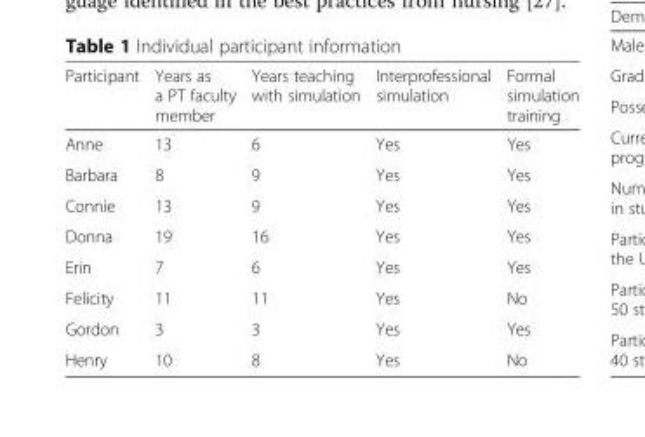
<table><thead><tr><td>Participant</td><td>Years as a PT faculty member</td><td>Years teaching with simulation</td><td>Interprofessional simulation</td><td>Formal simulation training</td></tr></thead><tbody><tr><td>Anne</td><td>13</td><td>6</td><td>Yes</td><td>Yes</td></tr><tr><td>Barbara</td><td>8</td><td>9</td><td>Yes</td><td>Yes</td></tr><tr><td>Connie</td><td>13</td><td>9</td><td>Yes</td><td>Yes</td></tr><tr><td>Donna</td><td>19</td><td>16</td><td>Yes</td><td>Yes</td></tr><tr><td>Erin</td><td>7</td><td>6</td><td>Yes</td><td>Yes</td></tr><tr><td>Felicity</td><td>11</td><td>11</td><td>Yes</td><td>No</td></tr><tr><td>Gordon</td><td>3</td><td>3</td><td>Yes</td><td>Yes</td></tr><tr><td>Henry</td><td>10</td><td>8</td><td>Yes</td><td>No</td></tr></tbody></table>